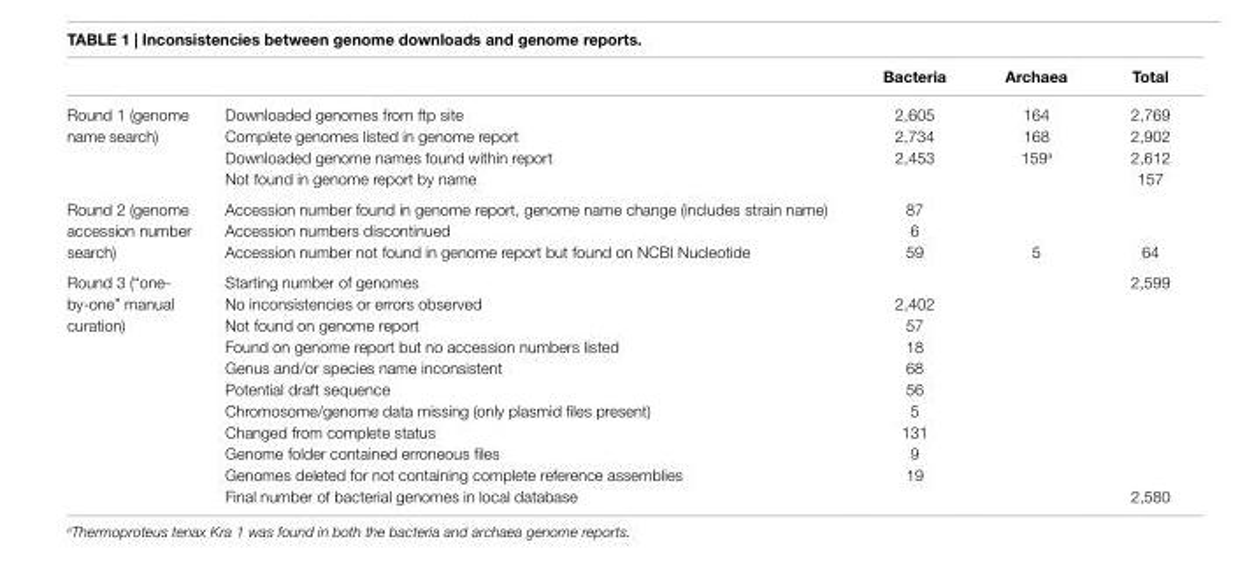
<table><thead><tr><td></td><td></td><td>Bacteria</td><td>archaea</td><td>Total</td></tr></thead><tbody><tr><td>Round 1 (genome name search)</td><td>Downloaded genomes from ftp site Complete genomes listed in genome report Downloaded genome names found within report Not found in genome report by name</td><td>2,605 2,734 2,453</td><td>164 168 159<sup>a</sup></td><td>2,769 2,902 2,612 157</td></tr><tr><td>Round 2 (genome accession number search)</td><td>Accession number found in genome report, genome name change (includes strain name) Accession numbers discontinued Accession number not found in genome report but found on NCBI Nucleotide</td><td>87 6 59</td><td>5</td><td>64</td></tr><tr><td>Round 3 (“one- by-one” manual curation)</td><td>Starting number of genomes No inconsistencies or errors observed Not found on genome report Found on genome report but no accession numbers listed Genus and/or species name inconsistent Potential draft sequence Chromosome/genome data missing (only plasmid files present) Changed from complete status Genome folder contained erroneous files Genomes deleted for not containing complete reference assemblies Final number of bacterial genomes in local database</td><td>2,402 57 18 68 56 5 131 9 19</td><td></td><td>2,599 2,580</td></tr></tbody></table>